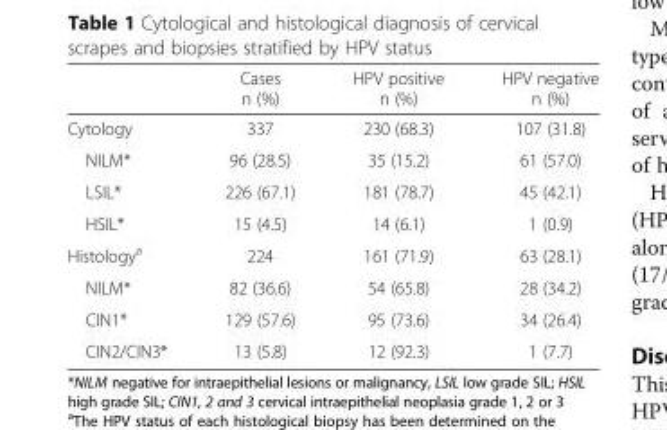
<table><thead><tr><td></td><td>Cases n (%)</td><td>HPV positive n (%)</td><td>HPV negative n (%)</td></tr></thead><tbody><tr><td>Cytology</td><td>337</td><td>230 (68.3)</td><td>107 (31.8)</td></tr><tr><td>NILM*</td><td>96 (28.5)</td><td>35 (15.2)</td><td>61 (57.0)</td></tr><tr><td>LSIL*</td><td>226 (67.1)</td><td>181 (78.7)</td><td>45 (42.1)</td></tr><tr><td>HSIL*</td><td>15 (4.5)</td><td>14 (6.1)</td><td>1 (0.9)</td></tr><tr><td>Histology<sup>a</sup></td><td>224</td><td>161 (71.9)</td><td>63 (28.1)</td></tr><tr><td>NILM*</td><td>82 (36.6)</td><td>54 (65.8)</td><td>28 (34.2)</td></tr><tr><td>CIN1*</td><td>129 (57.6)</td><td>95 (73.6)</td><td>34 (26.4)</td></tr><tr><td>CIN2/CIN3*</td><td>13 (5.8)</td><td>12 (92.3)</td><td>1 (7.7)</td></tr></tbody></table>